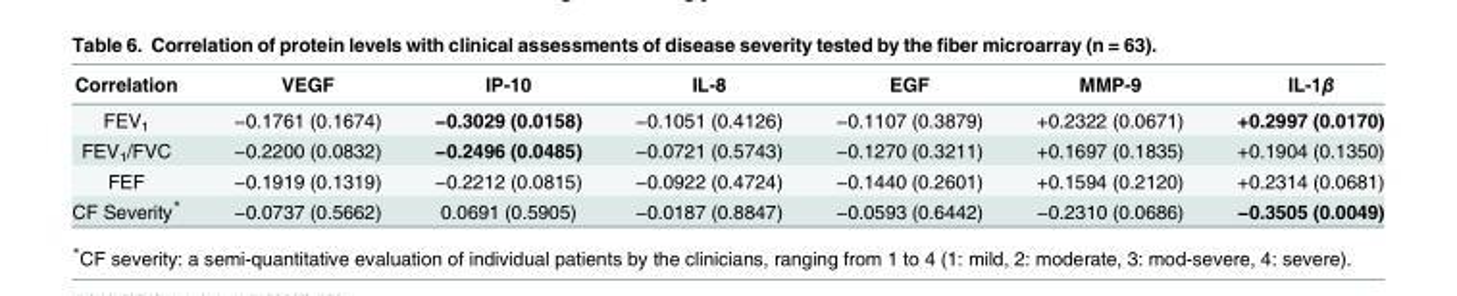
<table><thead><tr><td>Correlation</td><td>VEGF</td><td>IP-10</td><td>IL-8</td><td>EGF</td><td>MMP-9</td><td>IL-1β</td></tr></thead><tbody><tr><td>FEV<sub>1</sub></td><td>−0.1761 (0.1674)</td><td>−0.3029 (0.0158)</td><td>−0.1051 (0.4126)</td><td>−0.1107 (0.3879)</td><td>+0.2322 (0.0671)</td><td>+0.2997 (0.0170)</td></tr><tr><td>FEV<sub>1</sub>/FVC</td><td>−0.2200 (0.0832)</td><td>−0.2496 (0.0485)</td><td>−0.0721 (0.5743)</td><td>−0.1270 (0.3211)</td><td>+0.1697 (0.1835)</td><td>+0.1904 (0.1350)</td></tr><tr><td>FEF</td><td>−0.1919 (0.1319)</td><td>−0.2212 (0.0815)</td><td>−0.0922 (0.4724)</td><td>−0.1440 (0.2601)</td><td>+0.1594 (0.2120)</td><td>+0.2314 (0.0681)</td></tr><tr><td>CF Severity*</td><td>−0.0737 (0.5662)</td><td>0.0691 (0.5905)</td><td>−0.0187 (0.8847)</td><td>−0.0593 (0.6442)</td><td>−0.2310 (0.0686)</td><td>−0.3505 (0.0049)</td></tr></tbody></table>